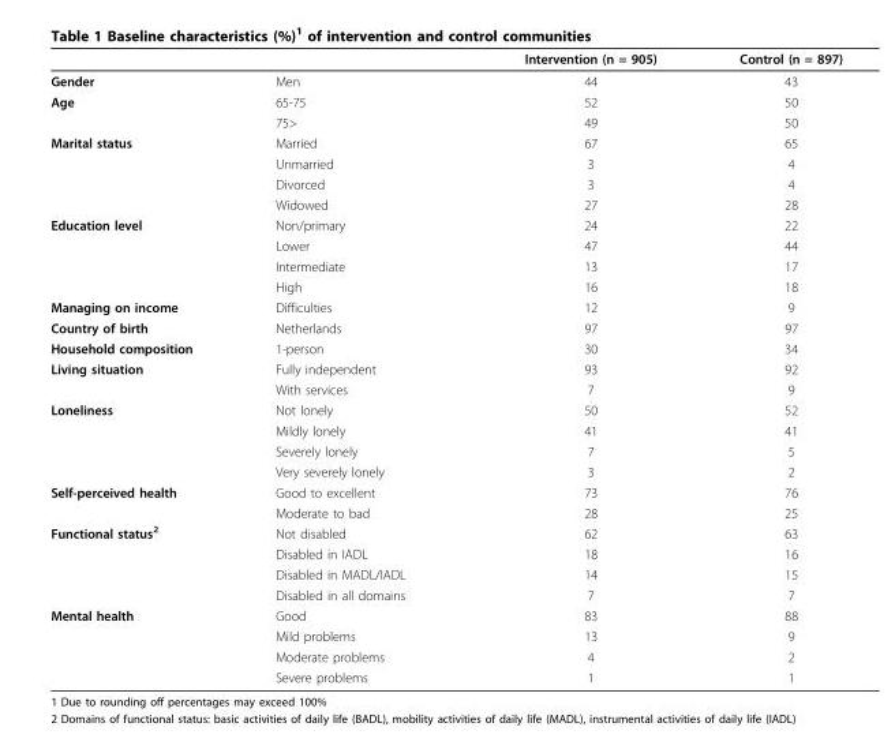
<table><thead><tr><td></td><td></td><td>Intervention (n = 905)</td><td>Control (n = 897)</td></tr></thead><tbody><tr><td>Gender</td><td>Men</td><td>44</td><td>43</td></tr><tr><td rowspan="2">Age</td><td>65-75</td><td>52</td><td>50</td></tr><tr><td>75&gt;</td><td>49</td><td>50</td></tr><tr><td rowspan="4">Marital status</td><td>Married</td><td>67</td><td>65</td></tr><tr><td>Unmarried</td><td>3</td><td>4</td></tr><tr><td>Divorced</td><td>3</td><td>4</td></tr><tr><td>Widowed</td><td>27</td><td>28</td></tr><tr><td rowspan="4">Education level</td><td>Non/primary</td><td>24</td><td>22</td></tr><tr><td>Lower</td><td>47</td><td>44</td></tr><tr><td>Intermediate</td><td>13</td><td>17</td></tr><tr><td>High</td><td>16</td><td>18</td></tr><tr><td>Managing on income</td><td>Difficulties</td><td>12</td><td>9</td></tr><tr><td>Country of birth</td><td>Netherlands</td><td>97</td><td>97</td></tr><tr><td>Household composition</td><td>1-person</td><td>30</td><td>34</td></tr><tr><td rowspan="2">Living situation</td><td>Fully independent</td><td>93</td><td>92</td></tr><tr><td>With services</td><td>7</td><td>9</td></tr><tr><td rowspan="4">Loneliness</td><td>Not lonely</td><td>50</td><td>52</td></tr><tr><td>Mildly lonely</td><td>41</td><td>41</td></tr><tr><td>Severely lonely</td><td>7</td><td>5</td></tr><tr><td>Very severely lonely</td><td>3</td><td>2</td></tr><tr><td rowspan="2">Self-perceived health</td><td>Good to excellent</td><td>73</td><td>76</td></tr><tr><td>Moderate to bad</td><td>28</td><td>25</td></tr><tr><td rowspan="4">Functional status<sup>2</sup></td><td>Not disabled</td><td>62</td><td>63</td></tr><tr><td>Disabled in IADL</td><td>18</td><td>16</td></tr><tr><td>Disabled in MADL/IADL</td><td>14</td><td>15</td></tr><tr><td>Disabled in all domains</td><td>7</td><td>7</td></tr><tr><td rowspan="4">Mental health</td><td>Good</td><td>83</td><td>88</td></tr><tr><td>Mild problems</td><td>13</td><td>9</td></tr><tr><td>Moderate problems</td><td>4</td><td>2</td></tr><tr><td>Severe problems</td><td>1</td><td>1</td></tr></tbody></table>